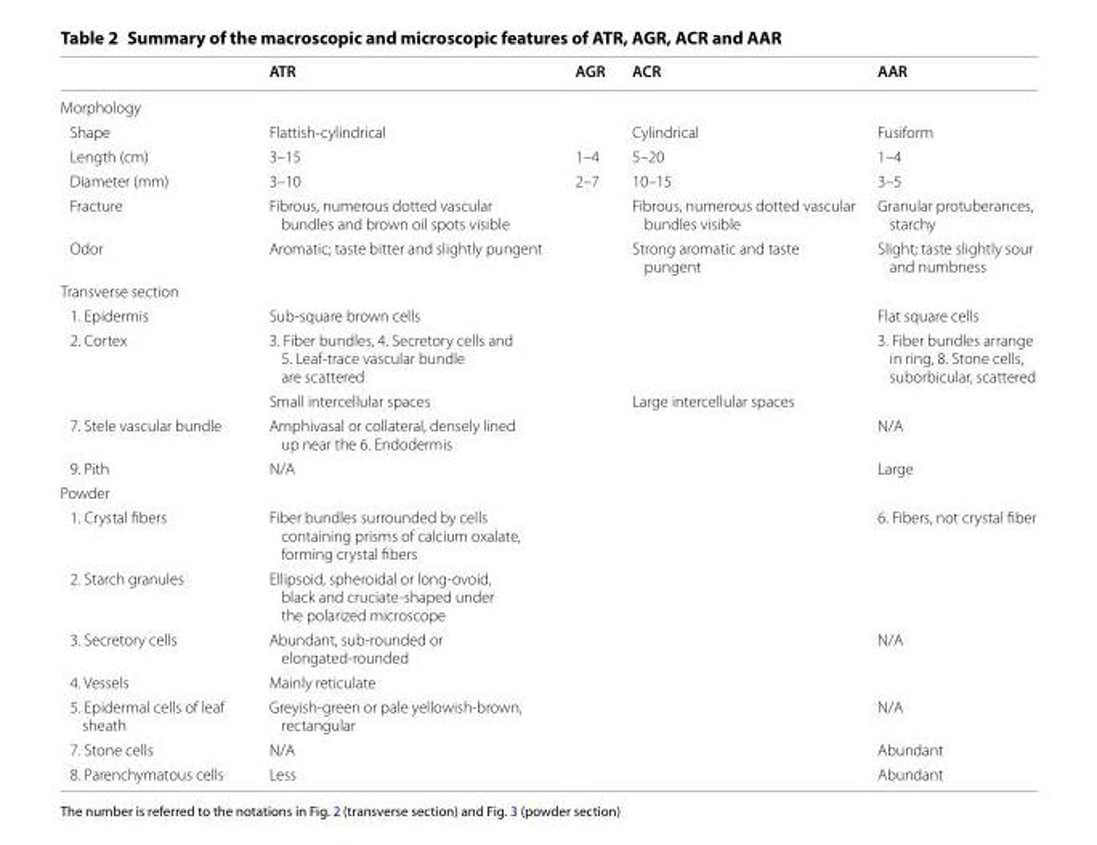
<table><thead><tr><td></td><td>ATR</td><td>AGR</td><td>ACR</td><td>AAR</td></tr></thead><tbody><tr><td colspan="5">Morphology</td></tr><tr><td>Shape</td><td colspan="2">Flattish‑cylindrical</td><td>Cylindrical</td><td>Fusiform</td></tr><tr><td>Length (cm)</td><td>3–15</td><td>1–4</td><td>5–20</td><td>1–4</td></tr><tr><td>Diameter (mm)</td><td>3–10</td><td>2–7</td><td>10–15</td><td>3–5</td></tr><tr><td>Fracture</td><td colspan="2">Fibrous, numerous dotted vascular bundles and brown oil spots visible</td><td>Fibrous, numerous dotted vascular bundles visible</td><td>Granular protuberances, starchy</td></tr><tr><td>Odor</td><td colspan="2">Aromatic; taste bitter and slightly pungent</td><td>Strong aromatic and taste pungent</td><td>Slight; taste slightly sour and numbness</td></tr><tr><td colspan="5">Transverse section</td></tr><tr><td>1. Epidermis</td><td colspan="3">Sub‑square brown cells</td><td>Flat square cells</td></tr><tr><td rowspan="2">2. Cortex</td><td colspan="3">3. Fiber bundles, 4. Secretory cells and 5. Leaf‑trace vascular bundle are scattered</td><td rowspan="2">3. Fiber bundles arrange in ring, 8. Stone cells, suborbicular, scattered</td></tr><tr><td colspan="2">Small intercellular spaces</td><td>Large intercellular spaces</td></tr><tr><td>7. Stele vascular bundle</td><td colspan="3">Amphivasal or collateral, densely lined up near the 6. Endodermis</td><td>N/A</td></tr><tr><td>9. Pith</td><td colspan="3">N/A</td><td>Large</td></tr><tr><td colspan="5">Powder</td></tr><tr><td>1. Crystal fibers</td><td colspan="3">Fiber bundles surrounded by cells containing prisms of calcium oxalate, forming crystal fibers</td><td>6. Fibers, not crystal fiber</td></tr><tr><td>2. Starch granules</td><td colspan="4">Ellipsoid, spheroidal or long‑ovoid, black and cruciate‑shaped under the polarized microscope</td></tr><tr><td>3. Secretory cells</td><td colspan="3">Abundant, sub‑rounded or elongated‑rounded</td><td>N/A</td></tr><tr><td>4. Vessels</td><td colspan="4">Mainly reticulate</td></tr><tr><td>5. Epidermal cells of leaf sheath</td><td colspan="3">Greyish‑green or pale yellowish‑brown, rectangular</td><td>N/A</td></tr><tr><td>7. Stone cells</td><td colspan="3">N/A</td><td>Abundant</td></tr><tr><td>8. Parenchymatous cells</td><td colspan="3">Less</td><td>Abundant</td></tr></tbody></table>